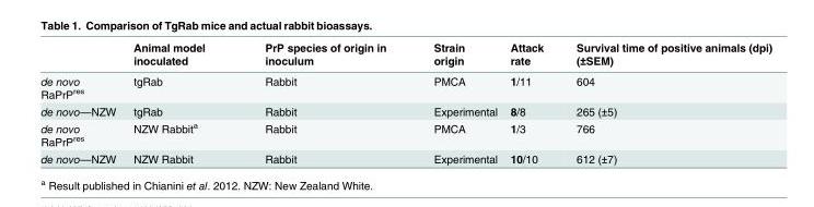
<table><thead><tr><td></td><td>Animal model inoculated</td><td>PrP species of origin in inoculum</td><td>Strain origin</td><td>Attack rate</td><td>Survival time of positive animals (dpi) (±SEM)</td></tr></thead><tbody><tr><td>de novo RaPrP<sup>res</sup></td><td>tgRab</td><td>Rabbit</td><td>PMCA</td><td>1/11</td><td>604</td></tr><tr><td>de novo—NZW</td><td>tgRab</td><td>Rabbit</td><td>Experimental</td><td>8/8</td><td>265 (±5)</td></tr><tr><td>de novo RaPrP<sup>res</sup></td><td>NZW Rabbit<sup>a</sup></td><td>Rabbit</td><td>PMCA</td><td>1/3</td><td>766</td></tr><tr><td>de novo—NZW</td><td>NZW Rabbit</td><td>Rabbit</td><td>Experimental</td><td>10/10</td><td>612 (±7)</td></tr></tbody></table>